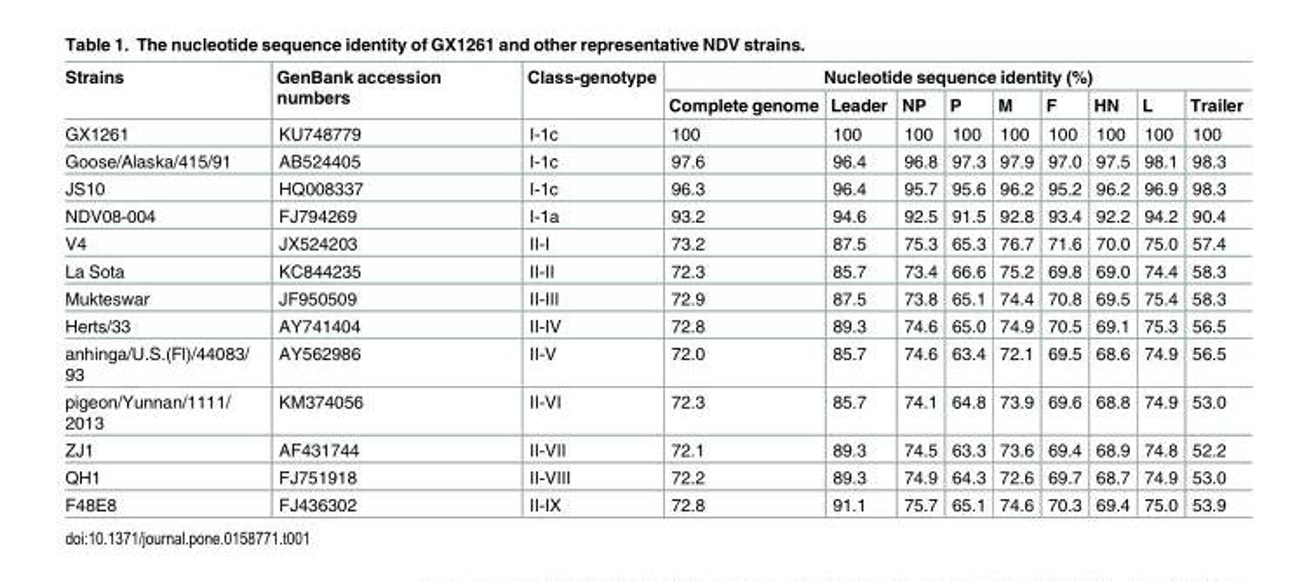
<table><thead><tr><td rowspan="2">Strains</td><td rowspan="2">GenBank accession numbers</td><td rowspan="2">Class-genotype</td><td colspan="9">Nucleotide sequence identity (%)</td></tr><tr><td>Complete genome</td><td>Leader</td><td>NP</td><td>P</td><td>M</td><td>F</td><td>HN</td><td>L</td><td>Trailer</td></tr></thead><tbody><tr><td>GX1261</td><td>KU748779</td><td>I-1c</td><td>100</td><td>100</td><td>100</td><td>100</td><td>100</td><td>100</td><td>100</td><td>100</td><td>100</td></tr><tr><td>Goose/Alaska/415/91</td><td>AB524405</td><td>I-1c</td><td>97.6</td><td>96.4</td><td>96.8</td><td>97.3</td><td>97.9</td><td>97.0</td><td>97.5</td><td>98.1</td><td>98.3</td></tr><tr><td>JS10</td><td>HQ008337</td><td>I-1c</td><td>96.3</td><td>96.4</td><td>95.7</td><td>95.6</td><td>96.2</td><td>95.2</td><td>96.2</td><td>96.9</td><td>98.3</td></tr><tr><td>NDV08-004</td><td>FJ794269</td><td>I-1a</td><td>93.2</td><td>94.6</td><td>92.5</td><td>91.5</td><td>92.8</td><td>93.4</td><td>92.2</td><td>94.2</td><td>90.4</td></tr><tr><td>V4</td><td>JX524203</td><td>II-I</td><td>73.2</td><td>87.5</td><td>75.3</td><td>65.3</td><td>76.7</td><td>71.6</td><td>70.0</td><td>75.0</td><td>57.4</td></tr><tr><td>La Sota</td><td>KC844235</td><td>II-II</td><td>72.3</td><td>85.7</td><td>73.4</td><td>66.6</td><td>75.2</td><td>69.8</td><td>69.0</td><td>74.4</td><td>58.3</td></tr><tr><td>Mukteswar</td><td>JF950509</td><td>II-III</td><td>72.9</td><td>87.5</td><td>73.8</td><td>65.1</td><td>74.4</td><td>70.8</td><td>69.5</td><td>75.4</td><td>58.3</td></tr><tr><td>Herts/33</td><td>AY741404</td><td>II-IV</td><td>72.8</td><td>89.3</td><td>74.6</td><td>65.0</td><td>74.9</td><td>70.5</td><td>69.1</td><td>75.3</td><td>56.5</td></tr><tr><td>anhinga/U.S.(Fl)/44083/ 93</td><td>AY562986</td><td>II-V</td><td>72.0</td><td>85.7</td><td>74.6</td><td>63.4</td><td>72.1</td><td>69.5</td><td>68.6</td><td>74.9</td><td>56.5</td></tr><tr><td>pigeon/Yunnan/1111/ 2013</td><td>KM374056</td><td>II-VI</td><td>72.3</td><td>85.7</td><td>74.1</td><td>64.8</td><td>73.9</td><td>69.6</td><td>68.8</td><td>74.9</td><td>53.0</td></tr><tr><td>ZJ1</td><td>AF431744</td><td>II-VII</td><td>72.1</td><td>89.3</td><td>74.5</td><td>63.3</td><td>73.6</td><td>69.4</td><td>68.9</td><td>74.8</td><td>52.2</td></tr><tr><td>QH1</td><td>FJ751918</td><td>II-VIII</td><td>72.2</td><td>89.3</td><td>74.9</td><td>64.3</td><td>72.6</td><td>69.7</td><td>68.7</td><td>74.9</td><td>53.0</td></tr><tr><td>F48E8</td><td>FJ436302</td><td>II-IX</td><td>72.8</td><td>91.1</td><td>75.7</td><td>65.1</td><td>74.6</td><td>70.3</td><td>69.4</td><td>75.0</td><td>53.9</td></tr></tbody></table>